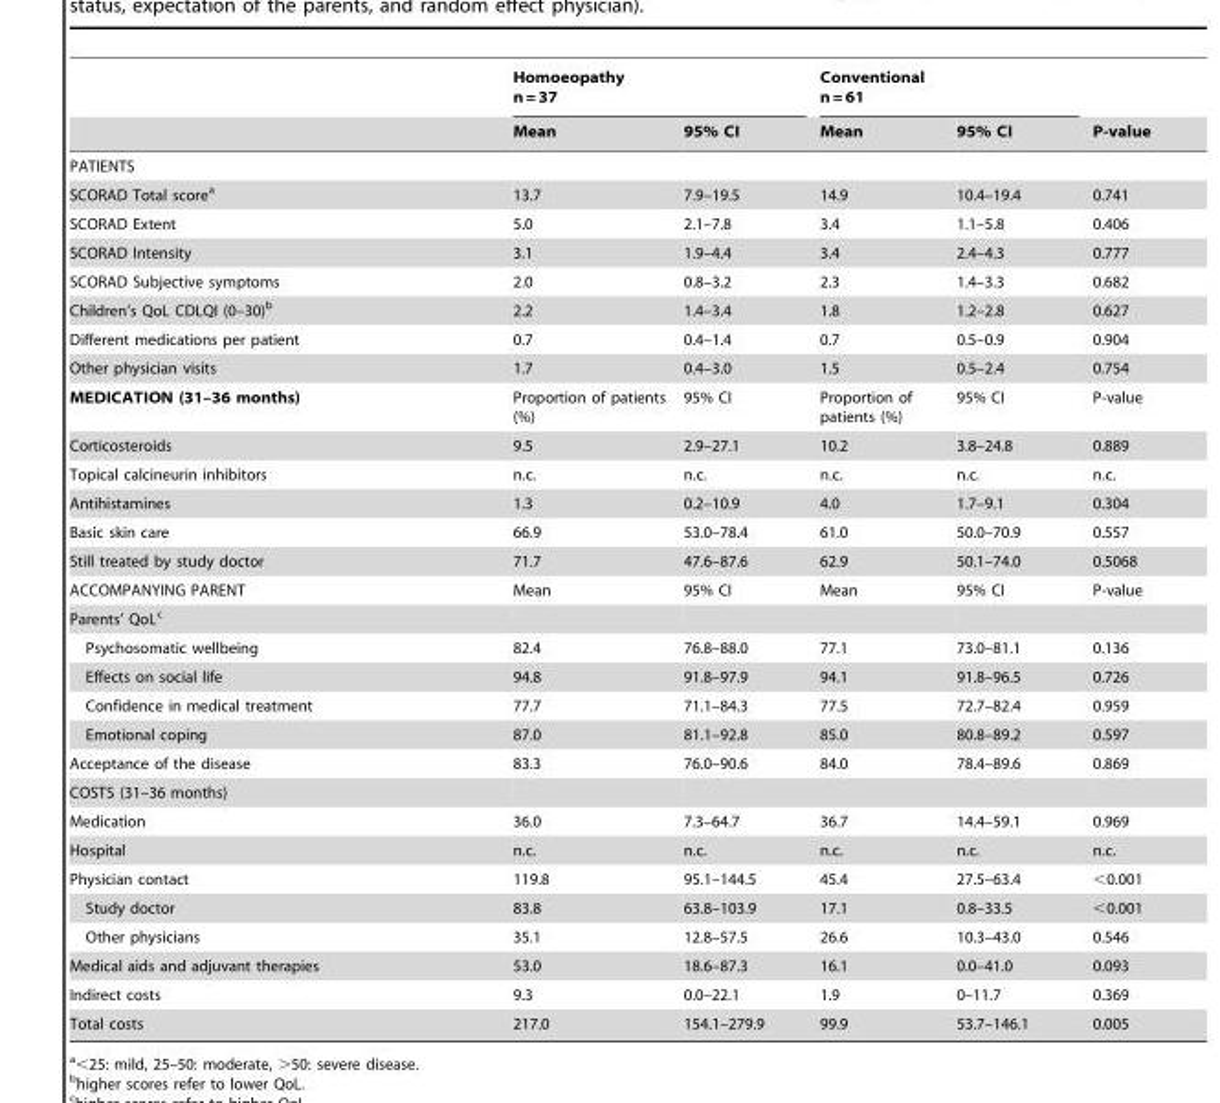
<table><thead><tr><td rowspan="2"></td><td colspan="2">Homoeopathy n = 37</td><td colspan="2">Conventional n = 61</td><td rowspan="2">P-value</td></tr><tr><td>Mean</td><td>95% CI</td><td>Mean</td><td>95% CI</td></tr></thead><tbody><tr><td colspan="6">PATIENTS</td></tr><tr><td>SCORAD Total score<sup>a</sup></td><td>13.7</td><td>7.9–19.5</td><td>14.9</td><td>10.4–19.4</td><td>0.741</td></tr><tr><td>SCORAD Extent</td><td>5.0</td><td>2.1–7.8</td><td>3.4</td><td>1.1–5.8</td><td>0.406</td></tr><tr><td>SCORAD Intensity</td><td>3.1</td><td>1.9–4.4</td><td>3.4</td><td>2.4–4.3</td><td>0.777</td></tr><tr><td>SCORAD Subjective symptoms</td><td>2.0</td><td>0.8–3.2</td><td>2.3</td><td>1.4–3.3</td><td>0.682</td></tr><tr><td>Children’s QoL CDLQI (0–30)<sup>b</sup></td><td>2.2</td><td>1.4–3.4</td><td>1.8</td><td>1.2–2.8</td><td>0.627</td></tr><tr><td>Different medications per patient</td><td>0.7</td><td>0.4–1.4</td><td>0.7</td><td>0.5–0.9</td><td>0.904</td></tr><tr><td>Other physician visits</td><td>1.7</td><td>0.4–3.0</td><td>1.5</td><td>0.5–2.4</td><td>0.754</td></tr><tr><td>MEDICATION (31–36 months)</td><td>Proportion of patients (%)</td><td>95% CI</td><td>Proportion of patients (%)</td><td>95% CI</td><td>P-value</td></tr><tr><td>Corticosteroids</td><td>9.5</td><td>2.9–27.1</td><td>10.2</td><td>3.8–24.8</td><td>0.889</td></tr><tr><td>Topical calcineurin inhibitors</td><td>n.c.</td><td>n.c.</td><td>n.c.</td><td>n.c.</td><td>n.c.</td></tr><tr><td>Antihistamines</td><td>1.3</td><td>0.2–10.9</td><td>4.0</td><td>1.7–9.1</td><td>0.304</td></tr><tr><td>Basic skin care</td><td>66.9</td><td>53.0–78.4</td><td>61.0</td><td>50.0–70.9</td><td>0.557</td></tr><tr><td>Still treated by study doctor</td><td>71.7</td><td>47.6–87.6</td><td>62.9</td><td>50.1–74.0</td><td>0.5068</td></tr><tr><td>ACCOMPANYING PARENT</td><td>Mean</td><td>95% CI</td><td>Mean</td><td>95% CI</td><td>P-value</td></tr><tr><td colspan="6">Parents’ QoL<sup>c</sup></td></tr><tr><td>Psychosomatic wellbeing</td><td>82.4</td><td>76.8–88.0</td><td>77.1</td><td>73.0–81.1</td><td>0.136</td></tr><tr><td>Effects on social life</td><td>94.8</td><td>91.8–97.9</td><td>94.1</td><td>91.8–96.5</td><td>0.726</td></tr><tr><td>Confidence in medical treatment</td><td>77.7</td><td>71.1–84.3</td><td>77.5</td><td>72.7–82.4</td><td>0.959</td></tr><tr><td>Emotional coping</td><td>87.0</td><td>81.1–92.8</td><td>85.0</td><td>80.8–89.2</td><td>0.597</td></tr><tr><td>Acceptance of the disease</td><td>83.3</td><td>76.0–90.6</td><td>84.0</td><td>78.4–89.6</td><td>0.869</td></tr><tr><td colspan="6">COSTS (31–36 months)</td></tr><tr><td>Medication</td><td>36.0</td><td>7.3–64.7</td><td>36.7</td><td>14.4–59.1</td><td>0.969</td></tr><tr><td>Hospital</td><td>n.c.</td><td>n.c.</td><td>n.c.</td><td>n.c.</td><td>n.c.</td></tr><tr><td>Physician contact</td><td>119.8</td><td>95.1–144.5</td><td>45.4</td><td>27.5–63.4</td><td>&lt;0.001</td></tr><tr><td>Study doctor</td><td>83.8</td><td>63.8–103.9</td><td>17.1</td><td>0.8–33.5</td><td>&lt;0.001</td></tr><tr><td>Other physicians</td><td>35.1</td><td>12.8–57.5</td><td>26.6</td><td>10.3–43.0</td><td>0.546</td></tr><tr><td>Medical aids and adjuvant therapies</td><td>53.0</td><td>18.6–87.3</td><td>16.1</td><td>0.0–41.0</td><td>0.093</td></tr><tr><td>Indirect costs</td><td>9.3</td><td>0.0–22.1</td><td>1.9</td><td>0–11.7</td><td>0.369</td></tr><tr><td>Total costs</td><td>217.0</td><td>154.1–279.9</td><td>99.9</td><td>53.7–146.1</td><td>0.005</td></tr></tbody></table>